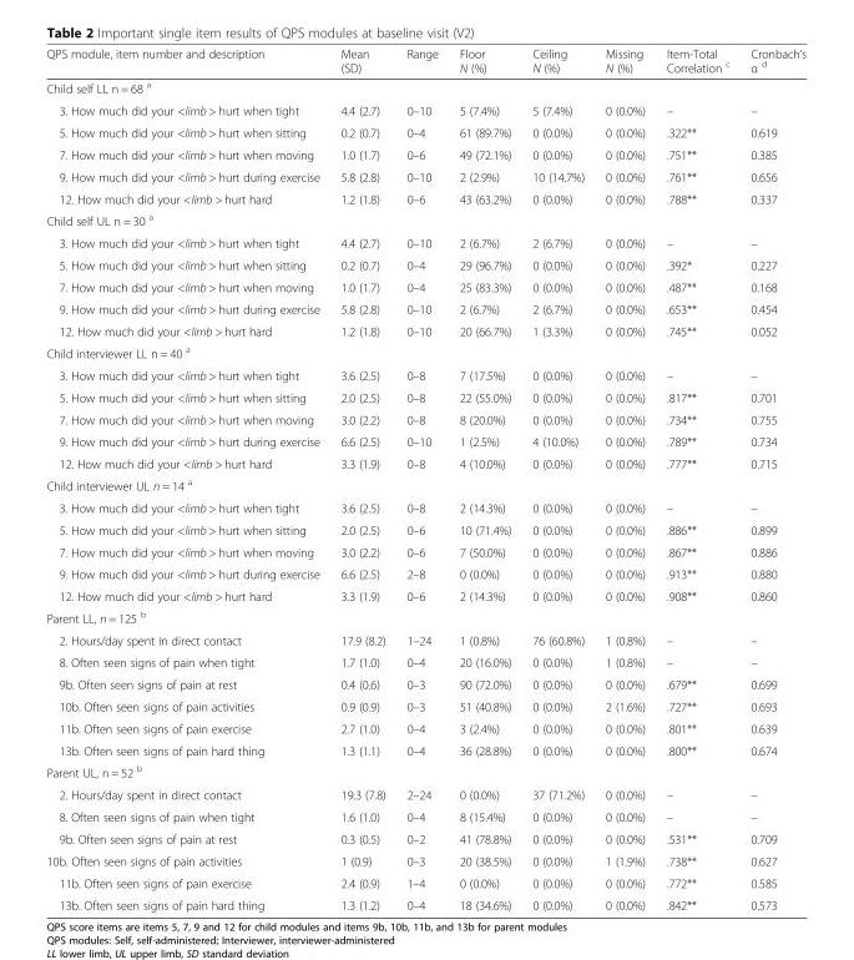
<table><thead><tr><td>QPS module, item number and description</td><td>Mean (SD)</td><td>Range</td><td>Floor N (%)</td><td>Ceiling N (%)</td><td>Missing N (%)</td><td>Item-Total Correlation <sup>c</sup></td><td>Cronbach’s α <sup>d</sup></td></tr></thead><tbody><tr><td colspan="8">Child self LL n = 68 <sup>a</sup></td></tr><tr><td>3. How much did your &lt;limb &gt; hurt when tight</td><td>4.4 (2.7)</td><td>0–10</td><td>5 (7.4%)</td><td>5 (7.4%)</td><td>0 (0.0%)</td><td>–</td><td>–</td></tr><tr><td>5. How much did your &lt;limb &gt; hurt when sitting</td><td>0.2 (0.7)</td><td>0–4</td><td>61 (89.7%)</td><td>0 (0.0%)</td><td>0 (0.0%)</td><td>.322**</td><td>0.619</td></tr><tr><td>7. How much did your &lt;limb &gt; hurt when moving</td><td>1.0 (1.7)</td><td>0–6</td><td>49 (72.1%)</td><td>0 (0.0%)</td><td>0 (0.0%)</td><td>.751**</td><td>0.385</td></tr><tr><td>9. How much did your &lt;limb &gt; hurt during exercise</td><td>5.8 (2.8)</td><td>0–10</td><td>2 (2.9%)</td><td>10 (14.7%)</td><td>0 (0.0%)</td><td>.761**</td><td>0.656</td></tr><tr><td>12. How much did your &lt;limb &gt; hurt hard</td><td>1.2 (1.8)</td><td>0–6</td><td>43 (63.2%)</td><td>0 (0.0%)</td><td>0 (0.0%)</td><td>.788**</td><td>0.337</td></tr><tr><td colspan="8">Child self UL n = 30 <sup>a</sup></td></tr><tr><td>3. How much did your &lt;limb &gt; hurt when tight</td><td>4.4 (2.7)</td><td>0–10</td><td>2 (6.7%)</td><td>2 (6.7%)</td><td>0 (0.0%)</td><td>–</td><td>–</td></tr><tr><td>5. How much did your &lt;limb &gt; hurt when sitting</td><td>0.2 (0.7)</td><td>0–4</td><td>29 (96.7%)</td><td>0 (0.0%)</td><td>0 (0.0%)</td><td>.392*</td><td>0.227</td></tr><tr><td>7. How much did your &lt;limb &gt; hurt when moving</td><td>1.0 (1.7)</td><td>0–4</td><td>25 (83.3%)</td><td>0 (0.0%)</td><td>0 (0.0%)</td><td>.487**</td><td>0.168</td></tr><tr><td>9. How much did your &lt;limb &gt; hurt during exercise</td><td>5.8 (2.8)</td><td>0–10</td><td>2 (6.7%)</td><td>2 (6.7%)</td><td>0 (0.0%)</td><td>.653**</td><td>0.454</td></tr><tr><td>12. How much did your &lt;limb &gt; hurt hard</td><td>1.2 (1.8)</td><td>0–10</td><td>20 (66.7%)</td><td>1 (3.3%)</td><td>0 (0.0%)</td><td>.745**</td><td>0.052</td></tr><tr><td colspan="8">Child interviewer LL n = 40 <sup>a</sup></td></tr><tr><td>3. How much did your &lt;limb &gt; hurt when tight</td><td>3.6 (2.5)</td><td>0–8</td><td>7 (17.5%)</td><td>0 (0.0%)</td><td>0 (0.0%)</td><td>–</td><td>–</td></tr><tr><td>5. How much did your &lt;limb &gt; hurt when sitting</td><td>2.0 (2.5)</td><td>0–8</td><td>22 (55.0%)</td><td>0 (0.0%)</td><td>0 (0.0%)</td><td>.817**</td><td>0.701</td></tr><tr><td>7. How much did your &lt;limb &gt; hurt when moving</td><td>3.0 (2.2)</td><td>0–8</td><td>8 (20.0%)</td><td>0 (0.0%)</td><td>0 (0.0%)</td><td>.734**</td><td>0.755</td></tr><tr><td>9. How much did your &lt;limb &gt; hurt during exercise</td><td>6.6 (2.5)</td><td>0–10</td><td>1 (2.5%)</td><td>4 (10.0%)</td><td>0 (0.0%)</td><td>.789**</td><td>0.734</td></tr><tr><td>12. How much did your &lt;limb &gt; hurt hard</td><td>3.3 (1.9)</td><td>0–8</td><td>4 (10.0%)</td><td>0 (0.0%)</td><td>0 (0.0%)</td><td>.777**</td><td>0.715</td></tr><tr><td colspan="8">Child interviewer UL n = 14 <sup>a</sup></td></tr><tr><td>3. How much did your &lt;limb &gt; hurt when tight</td><td>3.6 (2.5)</td><td>0–8</td><td>2 (14.3%)</td><td>0 (0.0%)</td><td>0 (0.0%)</td><td>–</td><td>–</td></tr><tr><td>5. How much did your &lt;limb &gt; hurt when sitting</td><td>2.0 (2.5)</td><td>0–6</td><td>10 (71.4%)</td><td>0 (0.0%)</td><td>0 (0.0%)</td><td>.886**</td><td>0.899</td></tr><tr><td>7. How much did your &lt;limb &gt; hurt when moving</td><td>3.0 (2.2)</td><td>0–6</td><td>7 (50.0%)</td><td>0 (0.0%)</td><td>0 (0.0%)</td><td>.867**</td><td>0.886</td></tr><tr><td>9. How much did your &lt;limb &gt; hurt during exercise</td><td>6.6 (2.5)</td><td>2–8</td><td>0 (0.0%)</td><td>0 (0.0%)</td><td>0 (0.0%)</td><td>.913**</td><td>0.880</td></tr><tr><td>12. How much did your &lt;limb &gt; hurt hard</td><td>3.3 (1.9)</td><td>0–6</td><td>2 (14.3%)</td><td>0 (0.0%)</td><td>0 (0.0%)</td><td>.908**</td><td>0.860</td></tr><tr><td colspan="8">Parent LL, n = 125 <sup>b</sup></td></tr><tr><td>2. Hours/day spent in direct contact</td><td>17.9 (8.2)</td><td>1–24</td><td>1 (0.8%)</td><td>76 (60.8%)</td><td>1 (0.8%)</td><td>–</td><td>–</td></tr><tr><td>8. Often seen signs of pain when tight</td><td>1.7 (1.0)</td><td>0–4</td><td>20 (16.0%)</td><td>0 (0.0%)</td><td>1 (0.8%)</td><td>–</td><td>–</td></tr><tr><td>9b. Often seen signs of pain at rest</td><td>0.4 (0.6)</td><td>0–3</td><td>90 (72.0%)</td><td>0 (0.0%)</td><td>0 (0.0%)</td><td>.679**</td><td>0.699</td></tr><tr><td>10b. Often seen signs of pain activities</td><td>0.9 (0.9)</td><td>0–3</td><td>51 (40.8%)</td><td>0 (0.0%)</td><td>2 (1.6%)</td><td>.727**</td><td>0.693</td></tr><tr><td>11b. Often seen signs of pain exercise</td><td>2.7 (1.0)</td><td>0–4</td><td>3 (2.4%)</td><td>0 (0.0%)</td><td>0 (0.0%)</td><td>.801**</td><td>0.639</td></tr><tr><td>13b. Often seen signs of pain hard thing</td><td>1.3 (1.1)</td><td>0–4</td><td>36 (28.8%)</td><td>0 (0.0%)</td><td>0 (0.0%)</td><td>.800**</td><td>0.674</td></tr><tr><td colspan="8">Parent UL, n = 52 <sup>b</sup></td></tr><tr><td>2. Hours/day spent in direct contact</td><td>19.3 (7.8)</td><td>2–24</td><td>0 (0.0%)</td><td>37 (71.2%)</td><td>0 (0.0%)</td><td>–</td><td>–</td></tr><tr><td>8. Often seen signs of pain when tight</td><td>1.6 (1.0)</td><td>0–4</td><td>8 (15.4%)</td><td>0 (0.0%)</td><td>0 (0.0%)</td><td>–</td><td>–</td></tr><tr><td>9b. Often seen signs of pain at rest</td><td>0.3 (0.5)</td><td>0–2</td><td>41 (78.8%)</td><td>0 (0.0%)</td><td>0 (0.0%)</td><td>.531**</td><td>0.709</td></tr><tr><td>10b. Often seen signs of pain activities</td><td>1 (0.9)</td><td>0–3</td><td>20 (38.5%)</td><td>0 (0.0%)</td><td>1 (1.9%)</td><td>.738**</td><td>0.627</td></tr><tr><td>11b. Often seen signs of pain exercise</td><td>2.4 (0.9)</td><td>1–4</td><td>0 (0.0%)</td><td>0 (0.0%)</td><td>0 (0.0%)</td><td>.772**</td><td>0.585</td></tr><tr><td>13b. Often seen signs of pain hard thing</td><td>1.3 (1.2)</td><td>0–4</td><td>18 (34.6%)</td><td>0 (0.0%)</td><td>0 (0.0%)</td><td>.842**</td><td>0.573</td></tr></tbody></table>